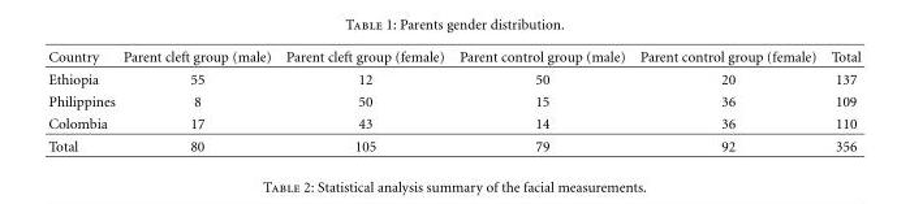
<table><thead><tr><td>Country</td><td>Parent cleft group (male)</td><td>Parent cleft group (female)</td><td>Parent control group (male)</td><td>Parent control group (female)</td><td>Total</td></tr></thead><tbody><tr><td>Ethiopia</td><td>55</td><td>12</td><td>50</td><td>20</td><td>137</td></tr><tr><td>Philippines</td><td>8</td><td>50</td><td>15</td><td>36</td><td>109</td></tr><tr><td>Colombia</td><td>17</td><td>43</td><td>14</td><td>36</td><td>110</td></tr><tr><td>Total</td><td>80</td><td>105</td><td>79</td><td>92</td><td>356</td></tr></tbody></table>